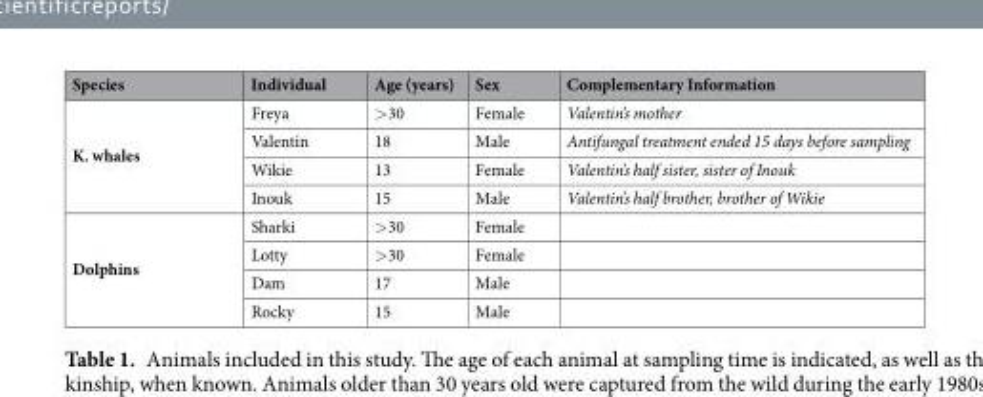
<table><thead><tr><td>Species</td><td>Individual</td><td>Age (years)</td><td>Sex</td><td>Complementary Information</td></tr></thead><tbody><tr><td rowspan="4">K. whales</td><td>Freya</td><td>&gt;30</td><td>Female</td><td>Valentin’s mother</td></tr><tr><td>Valentin</td><td>18</td><td>Male</td><td>Antifungal treatment ended 15 days before sampling</td></tr><tr><td>Wikie</td><td>13</td><td>Female</td><td>Valentin’s half sister, sister of Inouk</td></tr><tr><td>Inouk</td><td>15</td><td>Male</td><td>Valentin’s half brother, brother of Wikie</td></tr><tr><td rowspan="4">Dolphins</td><td>Sharki</td><td>&gt;30</td><td>Female</td><td></td></tr><tr><td>Lotty</td><td>&gt;30</td><td>Female</td><td></td></tr><tr><td>Dam</td><td>17</td><td>Male</td><td></td></tr><tr><td>Rocky</td><td>15</td><td>Male</td><td></td></tr></tbody></table>